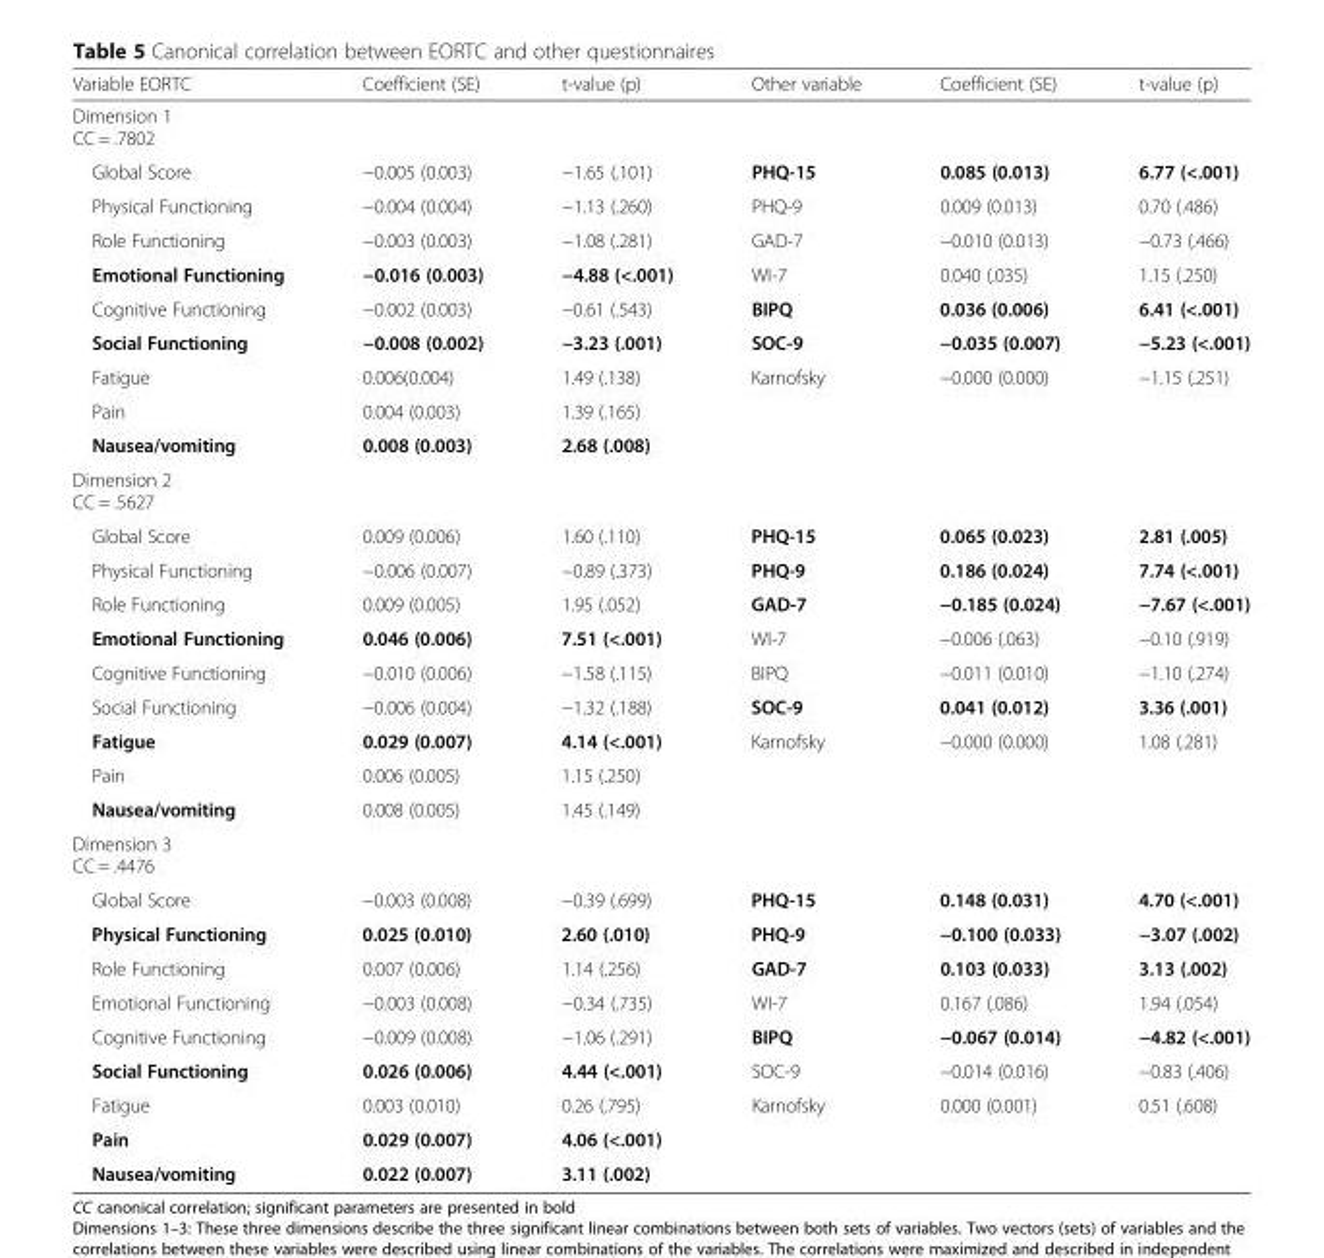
<table><thead><tr><td>Variable EORTC</td><td>Coefficient (SE)</td><td>t-value (p)</td><td>Other variable</td><td>Coefficient (SE)</td><td>t-value (p)</td></tr></thead><tbody><tr><td colspan="6">Dimension 1 CC = .7802</td></tr><tr><td>Global Score</td><td>−0.005 (0.003)</td><td>−1.65 (.101)</td><td>PHQ-15</td><td>0.085 (0.013)</td><td>6.77 (&lt;.001)</td></tr><tr><td>Physical Functioning</td><td>−0.004 (0.004)</td><td>−1.13 (.260)</td><td>PHQ-9</td><td>0.009 (0.013)</td><td>0.70 (.486)</td></tr><tr><td>Role Functioning</td><td>−0.003 (0.003)</td><td>−1.08 (.281)</td><td>GAD-7</td><td>−0.010 (0.013)</td><td>−0.73 (.466)</td></tr><tr><td>Emotional Functioning</td><td>−0.016 (0.003)</td><td>−4.88 (&lt;.001)</td><td>WI-7</td><td>0.040 (.035)</td><td>1.15 (.250)</td></tr><tr><td>Cognitive Functioning</td><td>−0.002 (0.003)</td><td>−0.61 (.543)</td><td>BIPQ</td><td>0.036 (0.006)</td><td>6.41 (&lt;.001)</td></tr><tr><td>Social Functioning</td><td>−0.008 (0.002)</td><td>−3.23 (.001)</td><td>SOC-9</td><td>−0.035 (0.007)</td><td>−5.23 (&lt;.001)</td></tr><tr><td>Fatigue</td><td>0.006(0.004)</td><td>1.49 (.138)</td><td>Karnofsky</td><td>−0.000 (0.000)</td><td>−1.15 (.251)</td></tr><tr><td>Pain</td><td>0.004 (0.003)</td><td>1.39 (.165)</td><td></td><td></td><td></td></tr><tr><td>Nausea/vomiting</td><td>0.008 (0.003)</td><td>2.68 (.008)</td><td></td><td></td><td></td></tr><tr><td colspan="6">Dimension 2 CC = .5627</td></tr><tr><td>Global Score</td><td>0.009 (0.006)</td><td>1.60 (.110)</td><td>PHQ-15</td><td>0.065 (0.023)</td><td>2.81 (.005)</td></tr><tr><td>Physical Functioning</td><td>−0.006 (0.007)</td><td>−0.89 (.373)</td><td>PHQ-9</td><td>0.186 (0.024)</td><td>7.74 (&lt;.001)</td></tr><tr><td>Role Functioning</td><td>0.009 (0.005)</td><td>1.95 (.052)</td><td>GAD-7</td><td>−0.185 (0.024)</td><td>−7.67 (&lt;.001)</td></tr><tr><td>Emotional Functioning</td><td>0.046 (0.006)</td><td>7.51 (&lt;.001)</td><td>WI-7</td><td>−0.006 (.063)</td><td>−0.10 (.919)</td></tr><tr><td>Cognitive Functioning</td><td>−0.010 (0.006)</td><td>−1.58 (.115)</td><td>BIPQ</td><td>−0.011 (0.010)</td><td>−1.10 (.274)</td></tr><tr><td>Social Functioning</td><td>−0.006 (0.004)</td><td>−1.32 (.188)</td><td>SOC-9</td><td>0.041 (0.012)</td><td>3.36 (.001)</td></tr><tr><td>Fatigue</td><td>0.029 (0.007)</td><td>4.14 (&lt;.001)</td><td>Karnofsky</td><td>−0.000 (0.000)</td><td>1.08 (.281)</td></tr><tr><td>Pain</td><td>0.006 (0.005)</td><td>1.15 (.250)</td><td></td><td></td><td></td></tr><tr><td>Nausea/vomiting</td><td>0.008 (0.005)</td><td>1.45 (.149)</td><td></td><td></td><td></td></tr><tr><td colspan="6">Dimension 3 CC = .4476</td></tr><tr><td>Global Score</td><td>−0.003 (0.008)</td><td>−0.39 (.699)</td><td>PHQ-15</td><td>0.148 (0.031)</td><td>4.70 (&lt;.001)</td></tr><tr><td>Physical Functioning</td><td>0.025 (0.010)</td><td>2.60 (.010)</td><td>PHQ-9</td><td>−0.100 (0.033)</td><td>−3.07 (.002)</td></tr><tr><td>Role Functioning</td><td>0.007 (0.006)</td><td>1.14 (.256)</td><td>GAD-7</td><td>0.103 (0.033)</td><td>3.13 (.002)</td></tr><tr><td>Emotional Functioning</td><td>−0.003 (0.008)</td><td>−0.34 (.735)</td><td>WI-7</td><td>0.167 (.086)</td><td>1.94 (.054)</td></tr><tr><td>Cognitive Functioning</td><td>−0.009 (0.008)</td><td>−1.06 (.291)</td><td>BIPQ</td><td>−0.067 (0.014)</td><td>−4.82 (&lt;.001)</td></tr><tr><td>Social Functioning</td><td>0.026 (0.006)</td><td>4.44 (&lt;.001)</td><td>SOC-9</td><td>−0.014 (0.016)</td><td>−0.83 (.406)</td></tr><tr><td>Fatigue</td><td>0.003 (0.010)</td><td>0.26 (.795)</td><td>Karnofsky</td><td>0.000 (0.001)</td><td>0.51 (.608)</td></tr><tr><td>Pain</td><td>0.029 (0.007)</td><td>4.06 (&lt;.001)</td><td></td><td></td><td></td></tr><tr><td>Nausea/vomiting</td><td>0.022 (0.007)</td><td>3.11 (.002)</td><td></td><td></td><td></td></tr></tbody></table>